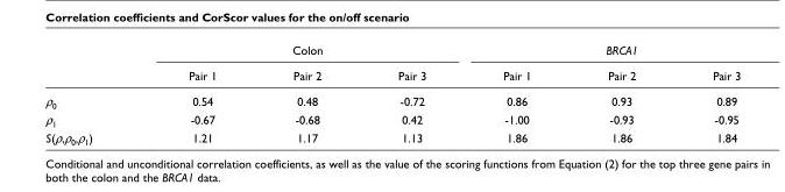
<table><thead><tr><td rowspan="2"></td><td colspan="3">Colon</td><td colspan="3">BRCA1</td></tr><tr><td>Pair 1</td><td>Pair 2</td><td>Pair 3</td><td>Pair 1</td><td>Pair 2</td><td>Pair 3</td></tr></thead><tbody><tr><td>ρ0</td><td>0.54</td><td>0.48</td><td>-0.72</td><td>0.86</td><td>0.93</td><td>0.89</td></tr><tr><td>ρ1</td><td>-0.67</td><td>-0.68</td><td>0.42</td><td>-1.00</td><td>-0.93</td><td>-0.95</td></tr><tr><td>S(ρ,ρ0,ρ1)</td><td>1.21</td><td>1.17</td><td>1.13</td><td>1.86</td><td>1.86</td><td>1.84</td></tr></tbody></table>